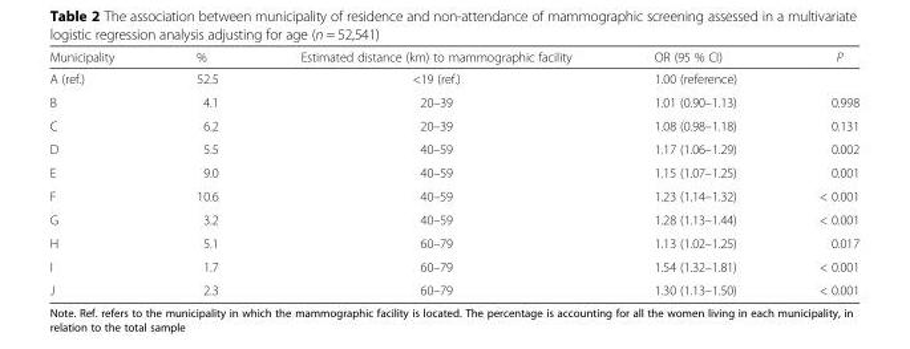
<table><thead><tr><td>Municipality</td><td>%</td><td>Estimated distance (km) to mammographic facility</td><td>OR (95 % CI)</td><td>P</td></tr></thead><tbody><tr><td>A (ref.)</td><td>52.5</td><td>&lt;19 (ref.)</td><td>1.00 (reference)</td><td></td></tr><tr><td>B</td><td>4.1</td><td>20–39</td><td>1.01 (0.90–1.13)</td><td>0.998</td></tr><tr><td>C</td><td>6.2</td><td>20–39</td><td>1.08 (0.98–1.18)</td><td>0.131</td></tr><tr><td>D</td><td>5.5</td><td>40–59</td><td>1.17 (1.06–1.29)</td><td>0.002</td></tr><tr><td>E</td><td>9.0</td><td>40–59</td><td>1.15 (1.07–1.25)</td><td>0.001</td></tr><tr><td>F</td><td>10.6</td><td>40–59</td><td>1.23 (1.14–1.32)</td><td>&lt; 0.001</td></tr><tr><td>G</td><td>3.2</td><td>40–59</td><td>1.28 (1.13–1.44)</td><td>&lt; 0.001</td></tr><tr><td>H</td><td>5.1</td><td>60–79</td><td>1.13 (1.02–1.25)</td><td>0.017</td></tr><tr><td>I</td><td>1.7</td><td>60–79</td><td>1.54 (1.32–1.81)</td><td>&lt; 0.001</td></tr><tr><td>J</td><td>2.3</td><td>60–79</td><td>1.30 (1.13–1.50)</td><td>&lt; 0.001</td></tr></tbody></table>